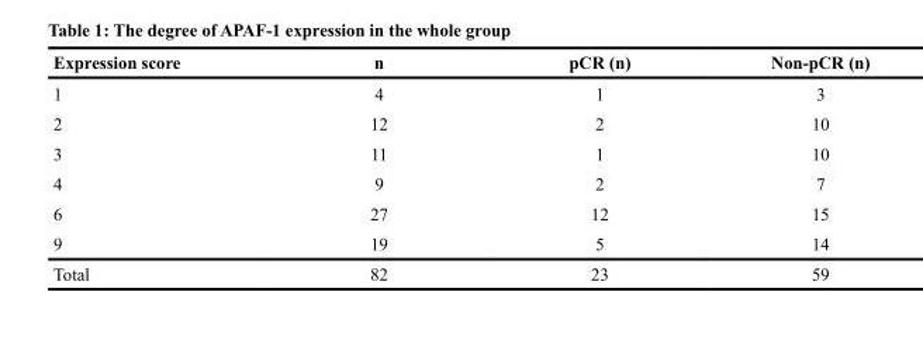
<table><thead><tr><td>Expression score</td><td>n</td><td>pCR (n)</td><td>Non-pCR (n)</td></tr></thead><tbody><tr><td>1</td><td>4</td><td>1</td><td>3</td></tr><tr><td>2</td><td>12</td><td>2</td><td>10</td></tr><tr><td>3</td><td>11</td><td>1</td><td>10</td></tr><tr><td>4</td><td>9</td><td>2</td><td>7</td></tr><tr><td>6</td><td>27</td><td>12</td><td>15</td></tr><tr><td>9</td><td>19</td><td>5</td><td>14</td></tr><tr><td>Total</td><td>82</td><td>23</td><td>59</td></tr></tbody></table>